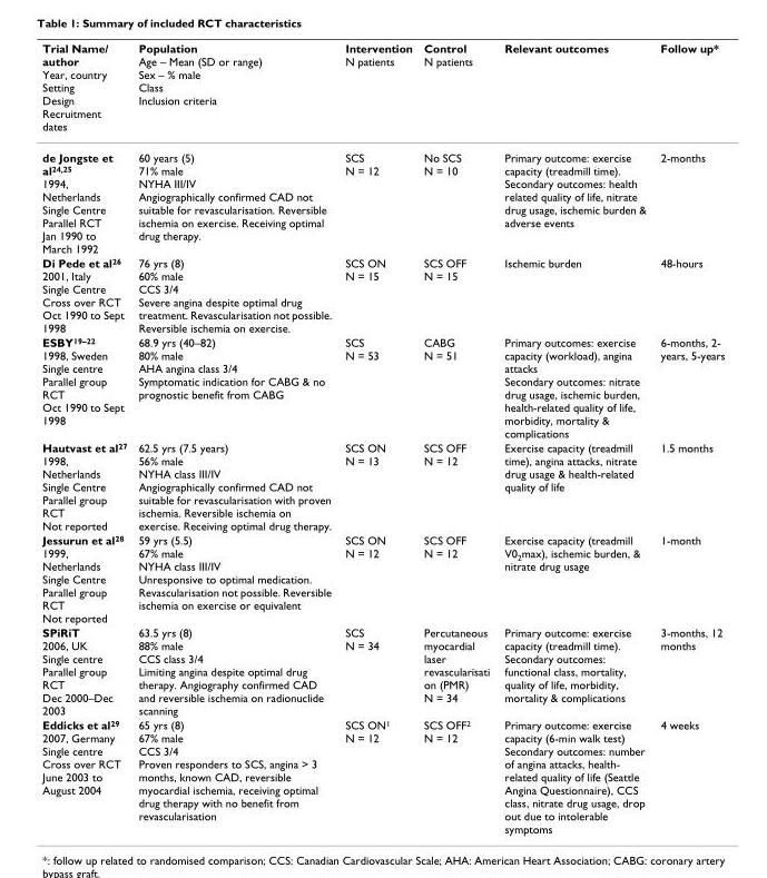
<table><thead><tr><td>Trial Name/ author Year, country Setting Design Recruitment dates</td><td>Population Age – Mean (SD or range) Sex – % male Class Inclusion criteria</td><td>Intervention N patients</td><td>Control N patients</td><td>Relevant outcomes</td><td>Follow up*</td></tr></thead><tbody><tr><td>de Jongste et al<sup>24,25</sup> 1994, Netherlands Single Centre Parallel RCT Jan 1990 to March 1992</td><td>60 years (5) 71% male NYHA III/IV Angiographically confirmed CAD not suitable for revascularisation. Reversible ischemia on exercise. Receiving optimal drug therapy.</td><td>SCS N = 12</td><td>No SCS N = 10</td><td>Primary outcome: exercise capacity (treadmill time). Secondary outcomes: health related quality of life, nitrate drug usage, ischemic burden &amp; adverse events</td><td>2-months</td></tr><tr><td>Di Pede et al<sup>26</sup> 2001, Italy Single Centre Cross over RCT Oct 1990 to Sept 1998</td><td>76 yrs (8) 60% male CCS 3/4 Severe angina despite optimal drug treatment. Revascularisation not possible. Reversible ischemia on exercise.</td><td>SCS ON N = 15</td><td>SCS OFF N = 15</td><td>Ischemic burden</td><td>48-hours</td></tr><tr><td>ESBY<sup>19–22</sup> 1998, Sweden Single centre Parallel group RCT Oct 1990 to Sept 1998</td><td>68.9 yrs (40–82) 80% male AHA angina class 3/4 Symptomatic indication for CABG &amp; no prognostic benefit from CABG</td><td>SCS N = 53</td><td>CABG N = 51</td><td>Primary outcomes: exercise capacity (workload), angina attacks Secondary outcomes: nitrate drug usage, ischemic burden, health-related quality of life, morbidity, mortality &amp; complications</td><td>6-months, 2- years, 5-years</td></tr><tr><td>Hautvast et al<sup>27</sup> 1998, Netherlands Single Centre Parallel group RCT Not reported</td><td>62.5 yrs (7.5 years) 56% male NYHA class III/IV Angiographically confirmed CAD not suitable for revascularisation with proven ischemia. Reversible ischemia on exercise. Receiving optimal drug therapy.</td><td>SCS ON N = 13</td><td>SCS OFF N = 12</td><td>Exercise capacity (treadmill time), angina attacks, nitrate drug usage &amp; health-related quality of life</td><td>1.5 months</td></tr><tr><td>Jessurun et al<sup>28</sup> 1999, Netherlands Single Centre Parallel group RCT Not reported</td><td>59 yrs (5.5) 67% male NYHA class III/IV Unresponsive to optimal medication. Revascularisation not possible. Reversible ischemia on exercise or equivalent</td><td>SCS ON N = 12</td><td>SCS OFF N = 12</td><td>Exercise capacity (treadmill V0<sub>2</sub>max), ischemic burden, &amp; nitrate drug usage</td><td>1-month</td></tr><tr><td>SPiRiT 2006, UK Single centre Parallel group RCT Dec 2000–Dec 2003</td><td>63.5 yrs (8) 88% male CCS class 3/4 Limiting angina despite optimal drug therapy. Angiography confirmed CAD and reversible ischemia on radionuclide scanning</td><td>SCS N = 34</td><td>Percutaneous myocardial laser revascularisati on (PMR) N = 34</td><td>Primary outcome: exercise capacity (treadmill time). Secondary outcomes: functional class, mortality, quality of life, morbidity, mortality &amp; complications</td><td>3-months, 12 months</td></tr><tr><td>Eddicks et al<sup>29</sup> 2007, Germany Single centre Cross over RCT June 2003 to August 2004</td><td>65 yrs (8) 67% male CCS 3/4 Proven responders to SCS, angina &gt; 3 months, known CAD, reversible myocardial ischemia, receiving optimal drug therapy with no benefit from revascularisation</td><td>SCS ON<sup>1</sup> N = 12</td><td>SCS OFF<sup>2</sup> N = 12</td><td>Primary outcome: exercise capacity (6-min walk test) Secondary outcomes: number of angina attacks, health- related quality of life (Seattle Angina Questionnaire), CCS class, nitrate drug usage, drop out due to intolerable symptoms</td><td>4 weeks</td></tr></tbody></table>